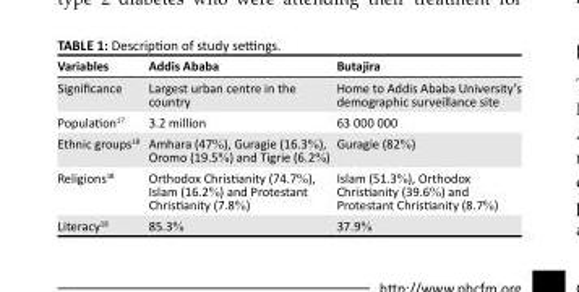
<table><thead><tr><td>Variables</td><td>Addis Ababa</td><td>Butajira</td></tr></thead><tbody><tr><td>Significance</td><td>Largest urban centre in the country</td><td>Home to Addis Ababa University’s demographic surveillance site</td></tr><tr><td>Population<sup>17</sup></td><td>3.2 million</td><td>63 000 000</td></tr><tr><td>Ethnic groups<sup>18</sup></td><td>Amhara (47%), Guragie (16.3%), Oromo (19.5%) and Tigrie (6.2%)</td><td>Guragie (82%)</td></tr><tr><td>Religions<sup>18</sup></td><td>Orthodox Christianity (74.7%), Islam (16.2%) and Protestant Christianity (7.8%)</td><td>Islam (51.3%), Orthodox Christianity (39.6%) and Protestant Christianity (8.7%)</td></tr><tr><td>Literacy<sup>18</sup></td><td>85.3%</td><td>37.9%</td></tr></tbody></table>